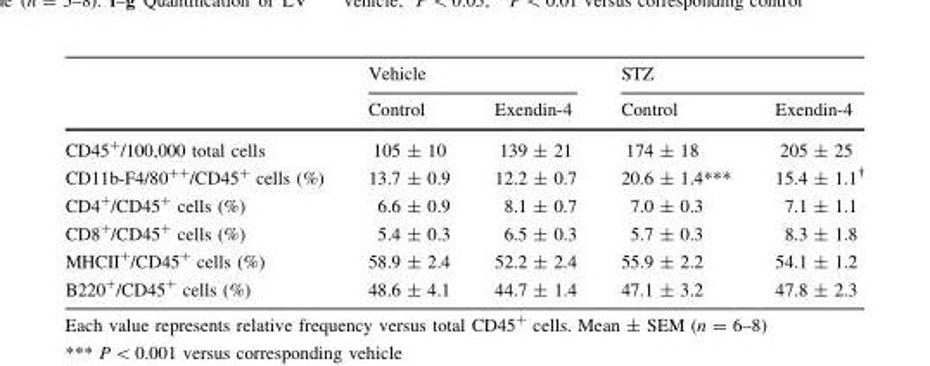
<table><thead><tr><td rowspan="2"></td><td colspan="2">Vehicle</td><td colspan="2">STZ</td></tr><tr><td>Control</td><td>Exendin-4</td><td>Control</td><td>Exendin-4</td></tr></thead><tbody><tr><td>CD45<sup>+</sup>/100,000 total cells</td><td>105 ± 10</td><td>139 ± 21</td><td>174 ± 18</td><td>205 ± 25</td></tr><tr><td>CD11b-F4/80<sup>++</sup>/CD45<sup>+</sup> cells (%)</td><td>13.7 ± 0.9</td><td>12.2 ± 0.7</td><td>20.6 ± 1.4***</td><td>15.4 ± 1.1<sup>†</sup></td></tr><tr><td>CD4<sup>+</sup>/CD45<sup>+</sup> cells (%)</td><td>6.6 ± 0.9</td><td>8.1 ± 0.7</td><td>7.0 ± 0.3</td><td>7.1 ± 1.1</td></tr><tr><td>CD8<sup>+</sup>/CD45<sup>+</sup> cells (%)</td><td>5.4 ± 0.3</td><td>6.5 ± 0.3</td><td>5.7 ± 0.3</td><td>8.3 ± 1.8</td></tr><tr><td>MHCII<sup>+</sup>/CD45<sup>+</sup> cells (%)</td><td>58.9 ± 2.4</td><td>52.2 ± 2.4</td><td>55.9 ± 2.2</td><td>54.1 ± 1.2</td></tr><tr><td>B220<sup>+</sup>/CD45<sup>+</sup> cells (%)</td><td>48.6 ± 4.1</td><td>44.7 ± 1.4</td><td>47.1 ± 3.2</td><td>47.8 ± 2.3</td></tr></tbody></table>